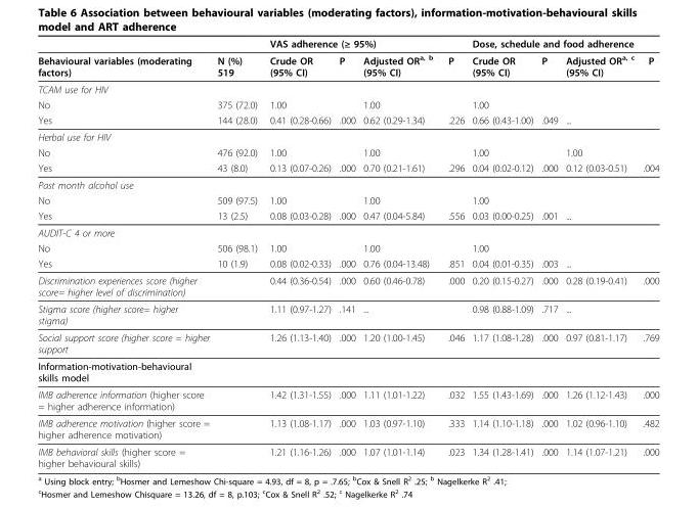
<table><thead><tr><td rowspan="2">Behavioural variables (moderating factors)</td><td rowspan="2">N (%) 519</td><td colspan="4">VAS adherence (≥ 95%)</td><td colspan="4">Dose, schedule and food adherence</td></tr><tr><td>Crude OR (95% CI)</td><td>P</td><td>Adjusted OR<sup>a, b</sup> (95% CI)</td><td>P</td><td>Crude OR (95% CI)</td><td>P</td><td>Adjusted OR<sup>a, c</sup> (95% CI)</td><td>P</td></tr></thead><tbody><tr><td colspan="10">TCAM use for HIV</td></tr><tr><td>No</td><td>375 (72.0)</td><td>1.00</td><td></td><td>1.00</td><td></td><td>1.00</td><td></td><td></td><td></td></tr><tr><td>Yes</td><td>144 (28.0)</td><td>0.41 (0.28-0.66)</td><td>.000</td><td>0.62 (0.29-1.34)</td><td>.226</td><td>0.66 (0.43-1.00)</td><td>.049</td><td>...</td><td></td></tr><tr><td colspan="10">Herbal use for HIV</td></tr><tr><td>No</td><td>476 (92.0)</td><td>1.00</td><td></td><td>1.00</td><td></td><td>1.00</td><td></td><td>1.00</td><td></td></tr><tr><td>Yes</td><td>43 (8.0)</td><td>0.13 (0.07-0.26)</td><td>.000</td><td>0.70 (0.21-1.61)</td><td>.296</td><td>0.04 (0.02-0.12)</td><td>.000</td><td>0.12 (0.03-0.51)</td><td>.004</td></tr><tr><td colspan="10">Past month alcohol use</td></tr><tr><td>No</td><td>509 (97.5)</td><td>1.00</td><td></td><td>1.00</td><td></td><td>1.00</td><td></td><td></td><td></td></tr><tr><td>Yes</td><td>13 (2.5)</td><td>0.08 (0.03-0.28)</td><td>.000</td><td>0.47 (0.04-5.84)</td><td>.556</td><td>0.03 (0.00-0.25)</td><td>.001</td><td>...</td><td></td></tr><tr><td colspan="10">AUDIT-C 4 or more</td></tr><tr><td>No</td><td>506 (98.1)</td><td>1.00</td><td></td><td>1.00</td><td></td><td>1.00</td><td></td><td></td><td></td></tr><tr><td>Yes</td><td>10 (1.9)</td><td>0.08 (0.02-0.33)</td><td>.000</td><td>0.76 (0.04-13.48)</td><td>.851</td><td>0.04 (0.01-0.35)</td><td>.003</td><td>...</td><td></td></tr><tr><td>Discrimination experiences score (higher score= higher level of discrimination)</td><td></td><td>0.44 (0.36-0.54)</td><td>.000</td><td>0.60 (0.46-0.78)</td><td>.000</td><td>0.20 (0.15-0.27)</td><td>.000</td><td>0.28 (0.19-0.41)</td><td>.000</td></tr><tr><td>Stigma score (higher score= higher stigma)</td><td></td><td>1.11 (0.97-1.27)</td><td>.141</td><td>...</td><td></td><td>0.98 (0.88-1.09)</td><td>.717</td><td>...</td><td></td></tr><tr><td>Social support score (higher score = higher support</td><td></td><td>1.26 (1.13-1.40)</td><td>.000</td><td>1.20 (1.00-1.45)</td><td>.046</td><td>1.17 (1.08-1.28)</td><td>.000</td><td>0.97 (0.81-1.17)</td><td>.769</td></tr><tr><td colspan="10">Information-motivation-behavioural skills model</td></tr><tr><td>IMB adherence information (higher score = higher adherence information)</td><td></td><td>1.42 (1.31-1.55)</td><td>.000</td><td>1.11 (1.01-1.22)</td><td>.032</td><td>1.55 (1.43-1.69)</td><td>.000</td><td>1.26 (1.12-1.43)</td><td>.000</td></tr><tr><td>IMB adherence motivation (higher score = higher adherence motivation)</td><td></td><td>1.13 (1.08-1.17)</td><td>.000</td><td>1.03 (0.97-1.10)</td><td>.333</td><td>1.14 (1.10-1.18)</td><td>.000</td><td>1.02 (0.96-1.10)</td><td>.482</td></tr><tr><td>IMB behavioral skills (higher score = higher behavioural skills)</td><td></td><td>1.21 (1.16-1.26)</td><td>.000</td><td>1.07 (1.01-1.14)</td><td>.023</td><td>1.34 (1.28-1.41)</td><td>.000</td><td>1.14 (1.07-1.21)</td><td>.000</td></tr></tbody></table>